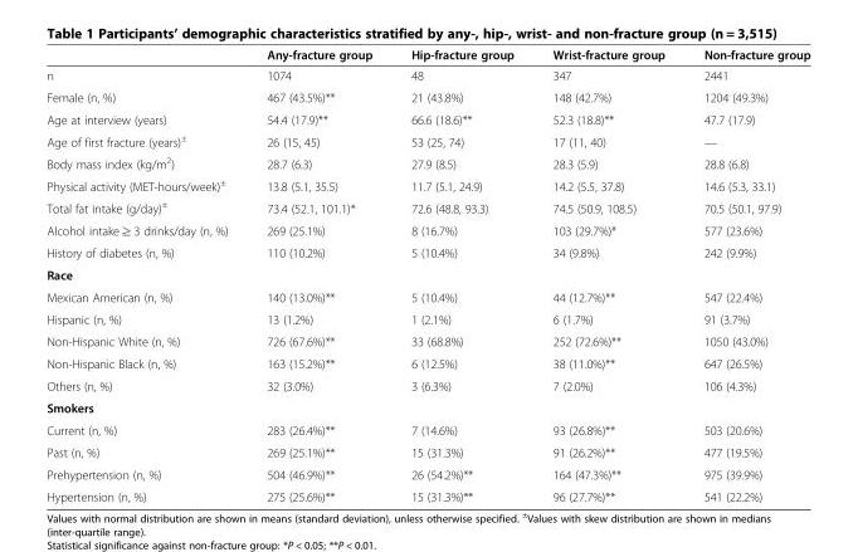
<table><thead><tr><td></td><td>Any-fracture group</td><td>Hip-fracture group</td><td>Wrist-fracture group</td><td>Non-fracture group</td></tr></thead><tbody><tr><td>n</td><td>1074</td><td>48</td><td>347</td><td>2441</td></tr><tr><td>Female (n, %)</td><td>467 (43.5%)**</td><td>21 (43.8%)</td><td>148 (42.7%)</td><td>1204 (49.3%)</td></tr><tr><td>Age at interview (years)</td><td>54.4 (17.9)**</td><td>66.6 (18.6)**</td><td>52.3 (18.8)**</td><td>47.7 (17.9)</td></tr><tr><td>Age of first fracture (years)<sup>±</sup></td><td>26 (15, 45)</td><td>53 (25, 74)</td><td>17 (11, 40)</td><td>—</td></tr><tr><td>Body mass index (kg/m<sup>2</sup>)</td><td>28.7 (6.3)</td><td>27.9 (8.5)</td><td>28.3 (5.9)</td><td>28.8 (6.8)</td></tr><tr><td>Physical activity (MET-hours/week)<sup>±</sup></td><td>13.8 (5.1, 35.5)</td><td>11.7 (5.1, 24.9)</td><td>14.2 (5.5, 37.8)</td><td>14.6 (5.3, 33.1)</td></tr><tr><td>Total fat intake (g/day)<sup>±</sup></td><td>73.4 (52.1, 101.1)*</td><td>72.6 (48.8, 93.3)</td><td>74.5 (50.9, 108.5)</td><td>70.5 (50.1, 97.9)</td></tr><tr><td>Alcohol intake ≥ 3 drinks/day (n, %)</td><td>269 (25.1%)</td><td>8 (16.7%)</td><td>103 (29.7%)*</td><td>577 (23.6%)</td></tr><tr><td>History of diabetes (n, %)</td><td>110 (10.2%)</td><td>5 (10.4%)</td><td>34 (9.8%)</td><td>242 (9.9%)</td></tr><tr><td colspan="5">Race</td></tr><tr><td>Mexican American (n, %)</td><td>140 (13.0%)**</td><td>5 (10.4%)</td><td>44 (12.7%)**</td><td>547 (22.4%)</td></tr><tr><td>Hispanic (n, %)</td><td>13 (1.2%)</td><td>1 (2.1%)</td><td>6 (1.7%)</td><td>91 (3.7%)</td></tr><tr><td>Non-Hispanic White (n, %)</td><td>726 (67.6%)**</td><td>33 (68.8%)</td><td>252 (72.6%)**</td><td>1050 (43.0%)</td></tr><tr><td>Non-Hispanic Black (n, %)</td><td>163 (15.2%)**</td><td>6 (12.5%)</td><td>38 (11.0%)**</td><td>647 (26.5%)</td></tr><tr><td>Others (n, %)</td><td>32 (3.0%)</td><td>3 (6.3%)</td><td>7 (2.0%)</td><td>106 (4.3%)</td></tr><tr><td colspan="5">Smokers</td></tr><tr><td>Current (n, %)</td><td>283 (26.4%)**</td><td>7 (14.6%)</td><td>93 (26.8%)**</td><td>503 (20.6%)</td></tr><tr><td>Past (n, %)</td><td>269 (25.1%)**</td><td>15 (31.3%)</td><td>91 (26.2%)**</td><td>477 (19.5%)</td></tr><tr><td>Prehypertension (n, %)</td><td>504 (46.9%)**</td><td>26 (54.2%)**</td><td>164 (47.3%)**</td><td>975 (39.9%)</td></tr><tr><td>Hypertension (n, %)</td><td>275 (25.6%)**</td><td>15 (31.3%)**</td><td>96 (27.7%)**</td><td>541 (22.2%)</td></tr></tbody></table>